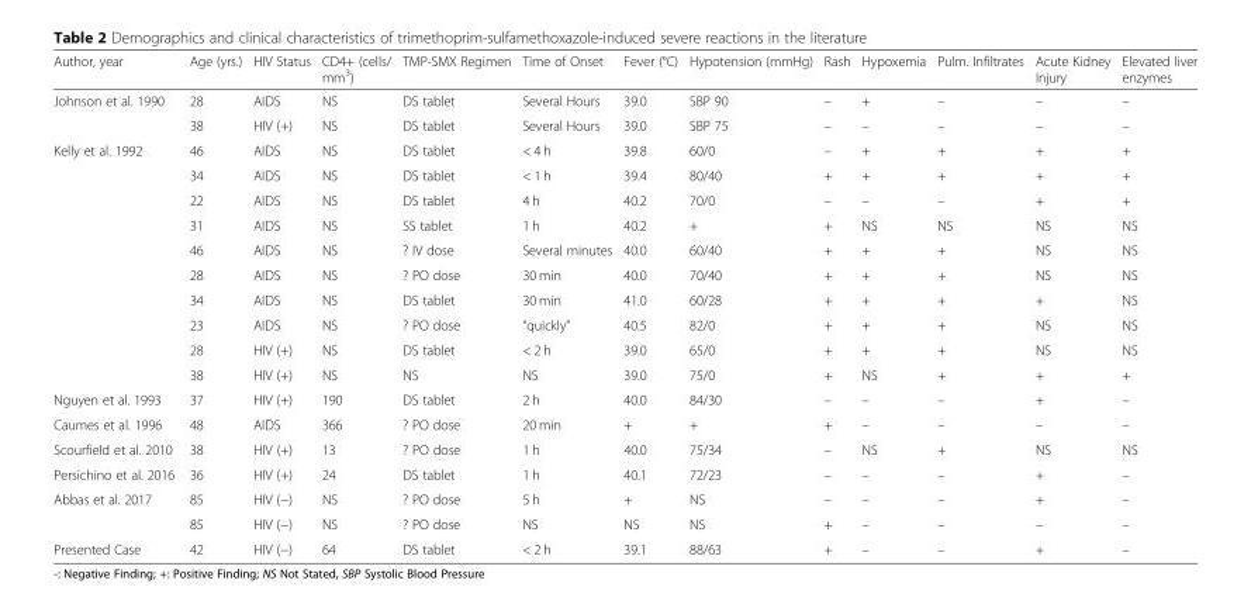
<table><thead><tr><td>Author, year</td><td>Age (yrs.)</td><td>HIV Status</td><td>CD4+ (cells/ mm<sup>3</sup>)</td><td>TMP-SMX Regimen</td><td>Time of Onset</td><td>Fever (°C)</td><td>Hypotension (mmHg)</td><td>Rash</td><td>Hypoxemia</td><td>Pulm. Infiltrates</td><td>Acute Kidney Injury</td><td>Elevated liver enzymes</td></tr></thead><tbody><tr><td rowspan="2">Johnson et al. 1990</td><td>28</td><td>AIDS</td><td>NS</td><td>DS tablet</td><td>Several Hours</td><td>39.0</td><td>SBP 90</td><td>–</td><td>+</td><td>–</td><td>–</td><td>–</td></tr><tr><td>38</td><td>HIV (+)</td><td>NS</td><td>DS tablet</td><td>Several Hours</td><td>39.0</td><td>SBP 75</td><td>–</td><td>–</td><td>–</td><td>–</td><td>–</td></tr><tr><td rowspan="10">Kelly et al. 1992</td><td>46</td><td>AIDS</td><td>NS</td><td>DS tablet</td><td>&lt; 4 h</td><td>39.8</td><td>60/0</td><td>–</td><td>+</td><td>+</td><td>+</td><td>+</td></tr><tr><td>34</td><td>AIDS</td><td>NS</td><td>DS tablet</td><td>&lt; 1 h</td><td>39.4</td><td>80/40</td><td>+</td><td>+</td><td>+</td><td>+</td><td>+</td></tr><tr><td>22</td><td>AIDS</td><td>NS</td><td>DS tablet</td><td>4 h</td><td>40.2</td><td>70/0</td><td>–</td><td>–</td><td>–</td><td>+</td><td>+</td></tr><tr><td>31</td><td>AIDS</td><td>NS</td><td>SS tablet</td><td>1 h</td><td>40.2</td><td>+</td><td>+</td><td>NS</td><td>NS</td><td>NS</td><td>NS</td></tr><tr><td>46</td><td>AIDS</td><td>NS</td><td>? IV dose</td><td>Several minutes</td><td>40.0</td><td>60/40</td><td>+</td><td>+</td><td>+</td><td>NS</td><td>NS</td></tr><tr><td>28</td><td>AIDS</td><td>NS</td><td>? PO dose</td><td>30 min</td><td>40.0</td><td>70/40</td><td>+</td><td>+</td><td>+</td><td>NS</td><td>NS</td></tr><tr><td>34</td><td>AIDS</td><td>NS</td><td>DS tablet</td><td>30 min</td><td>41.0</td><td>60/28</td><td>+</td><td>+</td><td>+</td><td>+</td><td>NS</td></tr><tr><td>23</td><td>AIDS</td><td>NS</td><td>? PO dose</td><td>“quickly”</td><td>40.5</td><td>82/0</td><td>+</td><td>+</td><td>+</td><td>NS</td><td>NS</td></tr><tr><td>28</td><td>HIV (+)</td><td>NS</td><td>DS tablet</td><td>&lt; 2 h</td><td>39.0</td><td>65/0</td><td>+</td><td>+</td><td>+</td><td>NS</td><td>NS</td></tr><tr><td>38</td><td>HIV (+)</td><td>NS</td><td>NS</td><td>NS</td><td>39.0</td><td>75/0</td><td>+</td><td>NS</td><td>+</td><td>+</td><td>+</td></tr><tr><td>Nguyen et al. 1993</td><td>37</td><td>HIV (+)</td><td>190</td><td>DS tablet</td><td>2 h</td><td>40.0</td><td>84/30</td><td>–</td><td>–</td><td>–</td><td>+</td><td>–</td></tr><tr><td>Caumes et al. 1996</td><td>48</td><td>AIDS</td><td>366</td><td>? PO dose</td><td>20 min</td><td>+</td><td>+</td><td>+</td><td>–</td><td>–</td><td>–</td><td>–</td></tr><tr><td>Scourfield et al. 2010</td><td>38</td><td>HIV (+)</td><td>13</td><td>? PO dose</td><td>1 h</td><td>40.0</td><td>75/34</td><td>–</td><td>NS</td><td>+</td><td>NS</td><td>NS</td></tr><tr><td>Persichino et al. 2016</td><td>36</td><td>HIV (+)</td><td>24</td><td>DS tablet</td><td>1 h</td><td>40.1</td><td>72/23</td><td>–</td><td>–</td><td>–</td><td>+</td><td>–</td></tr><tr><td rowspan="2">Abbas et al. 2017</td><td>85</td><td>HIV (−)</td><td>NS</td><td>? PO dose</td><td>5 h</td><td>+</td><td>NS</td><td>–</td><td>–</td><td>–</td><td>+</td><td>–</td></tr><tr><td>85</td><td>HIV (−)</td><td>NS</td><td>? PO dose</td><td>NS</td><td>NS</td><td>NS</td><td>+</td><td>–</td><td>–</td><td>–</td><td>–</td></tr><tr><td>Presented Case</td><td>42</td><td>HIV (−)</td><td>64</td><td>DS tablet</td><td>&lt; 2 h</td><td>39.1</td><td>88/63</td><td>+</td><td>–</td><td>–</td><td>+</td><td>–</td></tr></tbody></table>